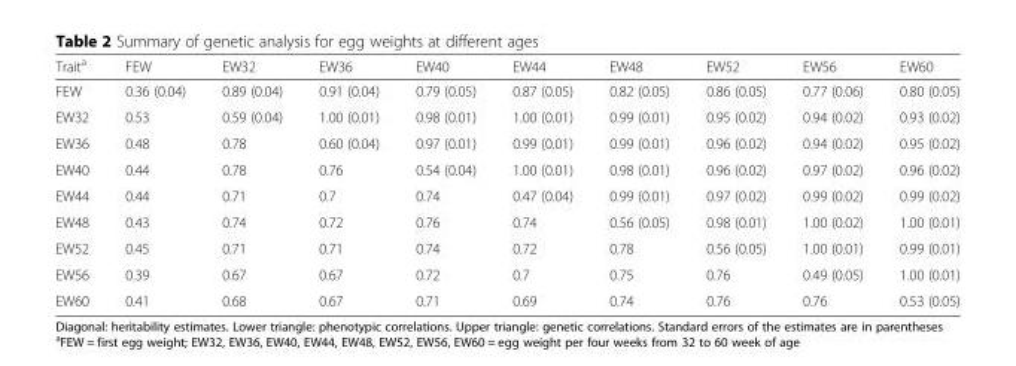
<table><thead><tr><td>Trait<sup>a</sup></td><td>FEW</td><td>EW32</td><td>EW36</td><td>EW40</td><td>EW44</td><td>EW48</td><td>EW52</td><td>EW56</td><td>EW60</td></tr></thead><tbody><tr><td>FEW</td><td>0.36 (0.04)</td><td>0.89 (0.04)</td><td>0.91 (0.04)</td><td>0.79 (0.05)</td><td>0.87 (0.05)</td><td>0.82 (0.05)</td><td>0.86 (0.05)</td><td>0.77 (0.06)</td><td>0.80 (0.05)</td></tr><tr><td>EW32</td><td>0.53</td><td>0.59 (0.04)</td><td>1.00 (0.01)</td><td>0.98 (0.01)</td><td>1.00 (0.01)</td><td>0.99 (0.01)</td><td>0.95 (0.02)</td><td>0.94 (0.02)</td><td>0.93 (0.02)</td></tr><tr><td>EW36</td><td>0.48</td><td>0.78</td><td>0.60 (0.04)</td><td>0.97 (0.01)</td><td>0.99 (0.01)</td><td>0.99 (0.01)</td><td>0.96 (0.02)</td><td>0.94 (0.02)</td><td>0.95 (0.02)</td></tr><tr><td>EW40</td><td>0.44</td><td>0.78</td><td>0.76</td><td>0.54 (0.04)</td><td>1.00 (0.01)</td><td>0.98 (0.01)</td><td>0.96 (0.02)</td><td>0.97 (0.02)</td><td>0.96 (0.02)</td></tr><tr><td>EW44</td><td>0.44</td><td>0.71</td><td>0.7</td><td>0.74</td><td>0.47 (0.04)</td><td>0.99 (0.01)</td><td>0.97 (0.02)</td><td>0.99 (0.02)</td><td>0.99 (0.02)</td></tr><tr><td>EW48</td><td>0.43</td><td>0.74</td><td>0.72</td><td>0.76</td><td>0.74</td><td>0.56 (0.05)</td><td>0.98 (0.01)</td><td>1.00 (0.02)</td><td>1.00 (0.01)</td></tr><tr><td>EW52</td><td>0.45</td><td>0.71</td><td>0.71</td><td>0.74</td><td>0.72</td><td>0.78</td><td>0.56 (0.05)</td><td>1.00 (0.01)</td><td>0.99 (0.01)</td></tr><tr><td>EW56</td><td>0.39</td><td>0.67</td><td>0.67</td><td>0.72</td><td>0.7</td><td>0.75</td><td>0.76</td><td>0.49 (0.05)</td><td>1.00 (0.01)</td></tr><tr><td>EW60</td><td>0.41</td><td>0.68</td><td>0.67</td><td>0.71</td><td>0.69</td><td>0.74</td><td>0.76</td><td>0.76</td><td>0.53 (0.05)</td></tr></tbody></table>